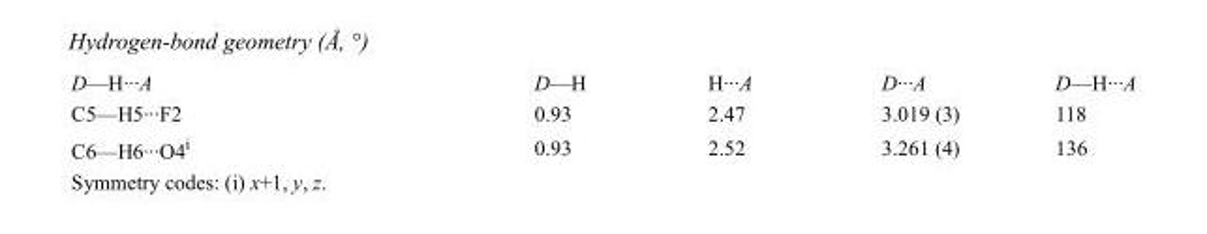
<table><tbody><tr><td>D—H···A</td><td>D—H</td><td>H···A</td><td>D···A</td><td>D—H···A</td></tr><tr><td>C5—H5···F2</td><td>0.93</td><td>2.47</td><td>3.019 (3)</td><td>118</td></tr><tr><td>C6—H6···O4<sup>i</sup></td><td>0.93</td><td>2.52</td><td>3.261 (4)</td><td>136</td></tr></tbody></table>